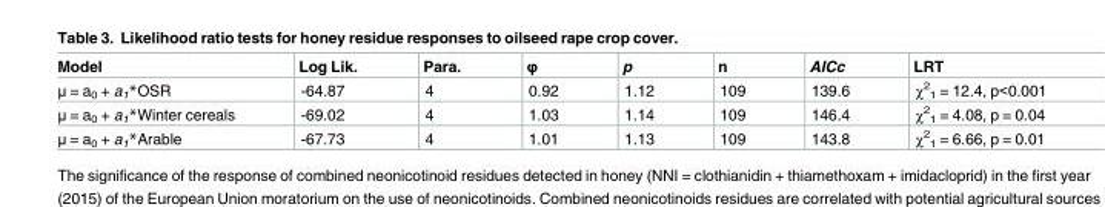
<table><thead><tr><td>Model</td><td>Log Lik.</td><td>Para.</td><td>φ</td><td>p</td><td>n</td><td>AICc</td><td>LRT</td></tr></thead><tbody><tr><td>μ = a<sub>0</sub> + a<sub>1</sub>*OSR</td><td>-64.87</td><td>4</td><td>0.92</td><td>1.12</td><td>109</td><td>139.6</td><td>χ<sup>2</sup> <sub>1</sub> = 12.4, p&lt;0.001</td></tr><tr><td>μ = a<sub>0</sub> + a<sub>1</sub>*Winter cereals</td><td>-69.02</td><td>4</td><td>1.03</td><td>1.14</td><td>109</td><td>146.4</td><td>χ<sup>2</sup> <sub>1</sub> = 4.08, p = 0.04</td></tr><tr><td>μ = a<sub>0</sub> + a<sub>1</sub>*Arable</td><td>-67.73</td><td>4</td><td>1.01</td><td>1.13</td><td>109</td><td>143.8</td><td>χ<sup>2</sup> <sub>1</sub> = 6.66, p = 0.01</td></tr></tbody></table>